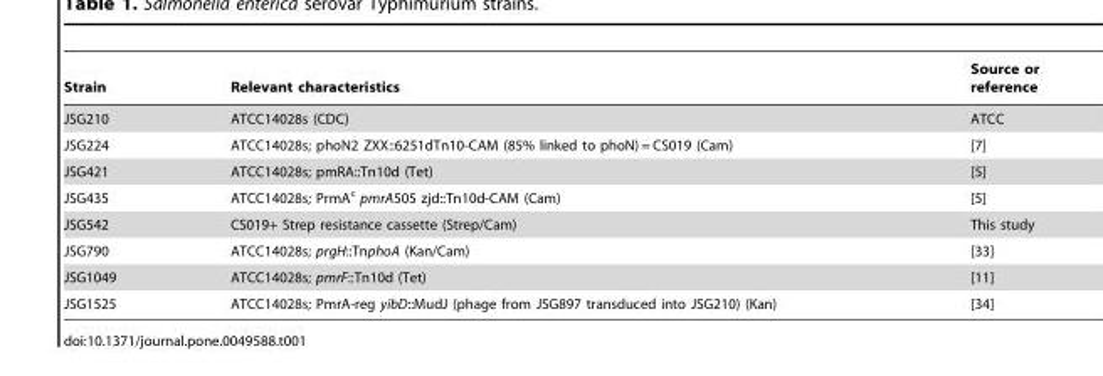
<table><thead><tr><td>Strain</td><td>Relevant characteristics</td><td>Source or reference</td></tr></thead><tbody><tr><td>JSG210</td><td>ATCC14028s (CDC)</td><td>ATCC</td></tr><tr><td>JSG224</td><td>ATCC14028s; phoN2 ZXX::6251dTn10-CAM (85% linked to phoN) = CS019 (Cam)</td><td>[7]</td></tr><tr><td>JSG421</td><td>ATCC14028s; pmRA::Tn10d (Tet)</td><td>[5]</td></tr><tr><td>JSG435</td><td>ATCC14028s; PrmA<sup>c</sup> pmrA505 zjd::Tn10d-CAM (Cam)</td><td>[5]</td></tr><tr><td>JSG542</td><td>CS019+ Strep resistance cassette (Strep/Cam)</td><td>This study</td></tr><tr><td>JSG790</td><td>ATCC14028s; prgH::TnphoA (Kan/Cam)</td><td>[33]</td></tr><tr><td>JSG1049</td><td>ATCC14028s; pmrF::Tn10d (Tet)</td><td>[11]</td></tr><tr><td>JSG1525</td><td>ATCC14028s; PmrA-reg yibD::MudJ (phage from JSG897 transduced into JSG210) (Kan)</td><td>[34]</td></tr></tbody></table>